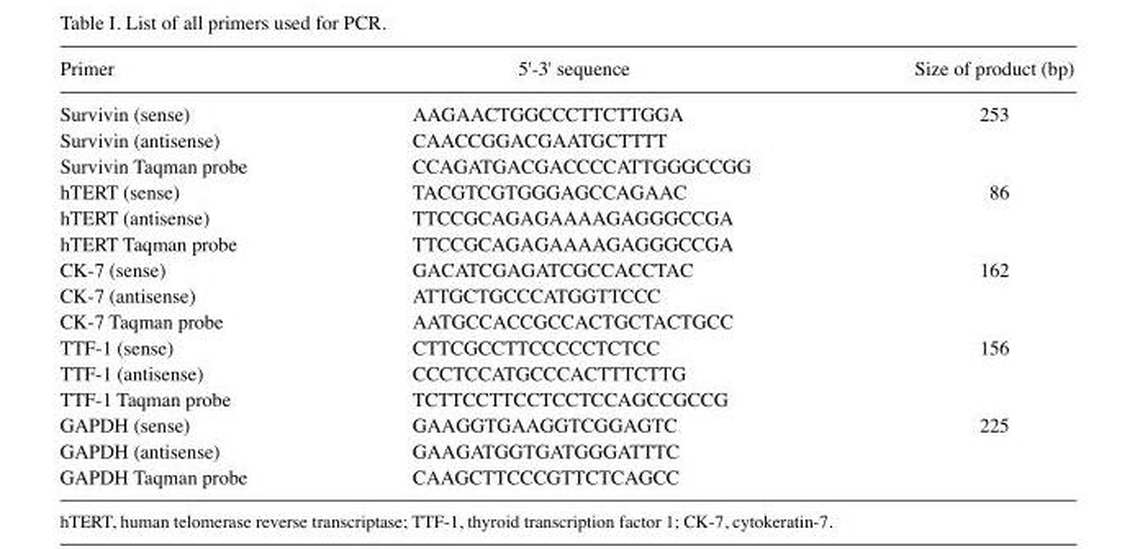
<table><thead><tr><td>Primer</td><td>5&#x27;-3&#x27; sequence</td><td>Size of product (bp)</td></tr></thead><tbody><tr><td>Survivin (sense)</td><td>AAGAACTGGCCCTTCTTGGA</td><td>253</td></tr><tr><td>Survivin (antisense)</td><td>CAACCGGACGAATGCTTTT</td><td></td></tr><tr><td>Survivin Taqman probe</td><td>CCAGATGACGACCCCATTGGGCCGG</td><td></td></tr><tr><td>hTERT (sense)</td><td>TACGTCGTGGGAGCCAGAAC</td><td>86</td></tr><tr><td>hTERT (antisense)</td><td>TTCCGCAGAGAAAAGAGGGCCGA</td><td></td></tr><tr><td>hTERT Taqman probe</td><td>TTCCGCAGAGAAAAGAGGGCCGA</td><td></td></tr><tr><td>CK-7 (sense)</td><td>GACATCGAGATCGCCACCTAC</td><td>162</td></tr><tr><td>CK-7 (antisense)</td><td>ATTGCTGCCCATGGTTCCC</td><td></td></tr><tr><td>CK-7 Taqman probe</td><td>AATGCCACCGCCACTGCTACTGCC</td><td></td></tr><tr><td>TTF-1 (sense)</td><td>CTTCGCCTTCCCCCTCTCC</td><td>156</td></tr><tr><td>TTF-1 (antisense)</td><td>CCCTCCATGCCCACTTTCTTG</td><td></td></tr><tr><td>TTF-1 Taqman probe</td><td>TCTTCCTTCCTCCTCCAGCCGCCG</td><td></td></tr><tr><td>GAPDH (sense)</td><td>GAAGGTGAAGGTCGGAGTC</td><td>225</td></tr><tr><td>GAPDH (antisense)</td><td>GAAGATGGTGATGGGATTTC</td><td></td></tr><tr><td>GAPDH Taqman probe</td><td>CAAGCTTCCCGTTCTCAGCC</td><td></td></tr></tbody></table>